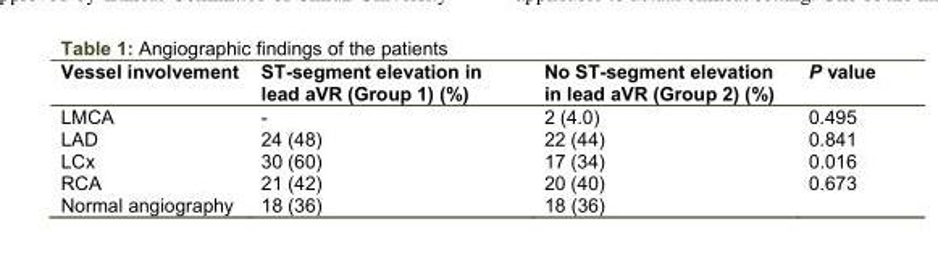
<table><thead><tr><td>Vessel involvement</td><td>ST-segment elevation in lead aVR (Group 1) (%)</td><td>No ST-segment elevation in lead aVR (Group 2) (%)</td><td>P value</td></tr></thead><tbody><tr><td>LMCA</td><td>-</td><td>2 (4.0)</td><td>0.495</td></tr><tr><td>LAD</td><td>24 (48)</td><td>22 (44)</td><td>0.841</td></tr><tr><td>LCx</td><td>30 (60)</td><td>17 (34)</td><td>0.016</td></tr><tr><td>RCA</td><td>21 (42)</td><td>20 (40)</td><td>0.673</td></tr><tr><td>Normal angiography</td><td>18 (36)</td><td>18 (36)</td><td></td></tr></tbody></table>